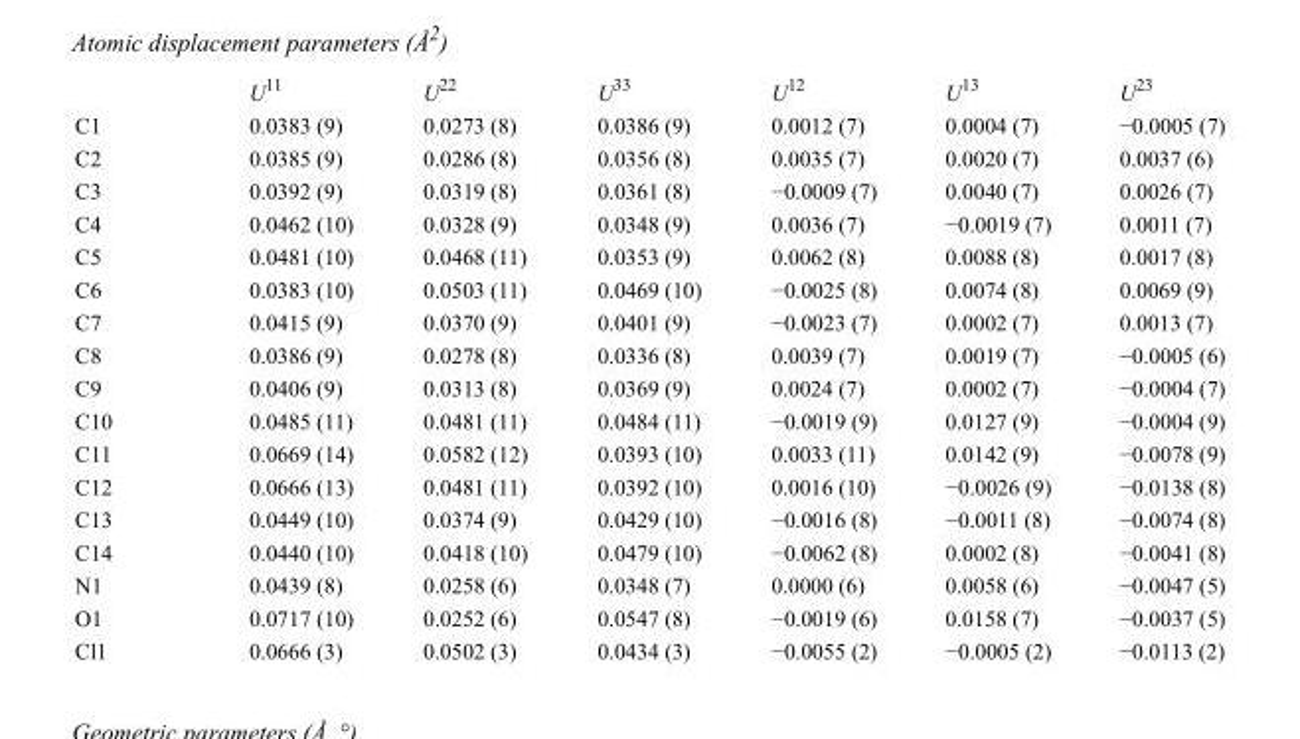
<table><thead><tr><td></td><td>U<sup>11</sup></td><td>U<sup>22</sup></td><td>U<sup>33</sup></td><td>U<sup>12</sup></td><td>U<sup>13</sup></td><td>U<sup>23</sup></td></tr></thead><tbody><tr><td>C1</td><td>0.0383 (9)</td><td>0.0273 (8)</td><td>0.0386 (9)</td><td>0.0012 (7)</td><td>0.0004 (7)</td><td>−0.0005 (7)</td></tr><tr><td>C2</td><td>0.0385 (9)</td><td>0.0286 (8)</td><td>0.0356 (8)</td><td>0.0035 (7)</td><td>0.0020 (7)</td><td>0.0037 (6)</td></tr><tr><td>C3</td><td>0.0392 (9)</td><td>0.0319 (8)</td><td>0.0361 (8)</td><td>−0.0009 (7)</td><td>0.0040 (7)</td><td>0.0026 (7)</td></tr><tr><td>C4</td><td>0.0462 (10)</td><td>0.0328 (9)</td><td>0.0348 (9)</td><td>0.0036 (7)</td><td>−0.0019 (7)</td><td>0.0011 (7)</td></tr><tr><td>C5</td><td>0.0481 (10)</td><td>0.0468 (11)</td><td>0.0353 (9)</td><td>0.0062 (8)</td><td>0.0088 (8)</td><td>0.0017 (8)</td></tr><tr><td>C6</td><td>0.0383 (10)</td><td>0.0503 (11)</td><td>0.0469 (10)</td><td>−0.0025 (8)</td><td>0.0074 (8)</td><td>0.0069 (9)</td></tr><tr><td>C7</td><td>0.0415 (9)</td><td>0.0370 (9)</td><td>0.0401 (9)</td><td>−0.0023 (7)</td><td>0.0002 (7)</td><td>0.0013 (7)</td></tr><tr><td>C8</td><td>0.0386 (9)</td><td>0.0278 (8)</td><td>0.0336 (8)</td><td>0.0039 (7)</td><td>0.0019 (7)</td><td>−0.0005 (6)</td></tr><tr><td>C9</td><td>0.0406 (9)</td><td>0.0313 (8)</td><td>0.0369 (9)</td><td>0.0024 (7)</td><td>0.0002 (7)</td><td>−0.0004 (7)</td></tr><tr><td>C10</td><td>0.0485 (11)</td><td>0.0481 (11)</td><td>0.0484 (11)</td><td>−0.0019 (9)</td><td>0.0127 (9)</td><td>−0.0004 (9)</td></tr><tr><td>C11</td><td>0.0669 (14)</td><td>0.0582 (12)</td><td>0.0393 (10)</td><td>0.0033 (11)</td><td>0.0142 (9)</td><td>−0.0078 (9)</td></tr><tr><td>C12</td><td>0.0666 (13)</td><td>0.0481 (11)</td><td>0.0392 (10)</td><td>0.0016 (10)</td><td>−0.0026 (9)</td><td>−0.0138 (8)</td></tr><tr><td>C13</td><td>0.0449 (10)</td><td>0.0374 (9)</td><td>0.0429 (10)</td><td>−0.0016 (8)</td><td>−0.0011 (8)</td><td>−0.0074 (8)</td></tr><tr><td>C14</td><td>0.0440 (10)</td><td>0.0418 (10)</td><td>0.0479 (10)</td><td>−0.0062 (8)</td><td>0.0002 (8)</td><td>−0.0041 (8)</td></tr><tr><td>N1</td><td>0.0439 (8)</td><td>0.0258 (6)</td><td>0.0348 (7)</td><td>0.0000 (6)</td><td>0.0058 (6)</td><td>−0.0047 (5)</td></tr><tr><td>O1</td><td>0.0717 (10)</td><td>0.0252 (6)</td><td>0.0547 (8)</td><td>−0.0019 (6)</td><td>0.0158 (7)</td><td>−0.0037 (5)</td></tr><tr><td>Cl1</td><td>0.0666 (3)</td><td>0.0502 (3)</td><td>0.0434 (3)</td><td>−0.0055 (2)</td><td>−0.0005 (2)</td><td>−0.0113 (2)</td></tr></tbody></table>